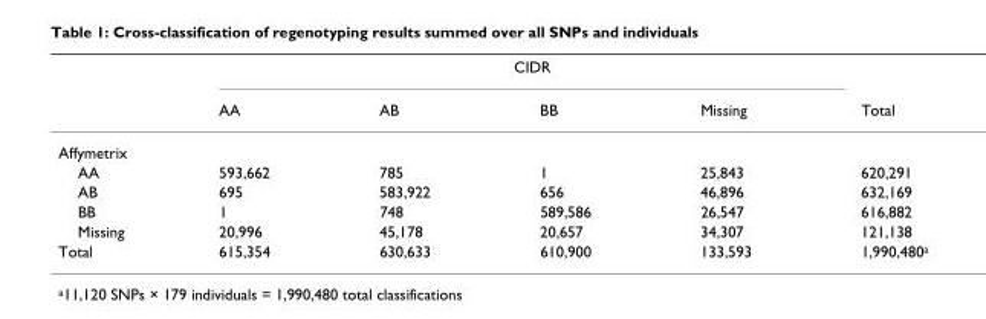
<table><thead><tr><td rowspan="2"></td><td colspan="4">CIDR</td><td rowspan="2">Total</td></tr><tr><td>AA</td><td>AB</td><td>BB</td><td>Missing</td></tr></thead><tbody><tr><td colspan="6">Affymetrix</td></tr><tr><td>AA</td><td>593,662</td><td>785</td><td>1</td><td>25,843</td><td>620,291</td></tr><tr><td>AB</td><td>695</td><td>583,922</td><td>656</td><td>46,896</td><td>632,169</td></tr><tr><td>BB</td><td>1</td><td>748</td><td>589,586</td><td>26,547</td><td>616,882</td></tr><tr><td>Missing</td><td>20,996</td><td>45,178</td><td>20,657</td><td>34,307</td><td>121,138</td></tr><tr><td>Total</td><td>615,354</td><td>630,633</td><td>610,900</td><td>133,593</td><td>1,990,480a</td></tr></tbody></table>